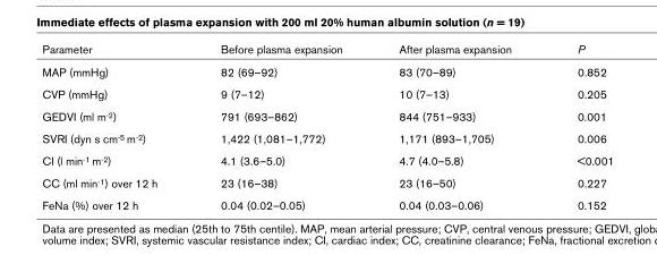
<table><thead><tr><td>Parameter</td><td>Before plasma expansion</td><td>After plasma expansion</td><td>P</td></tr></thead><tbody><tr><td>MAP (mmHg)</td><td>82 (69–92)</td><td>83 (70–89)</td><td>0.852</td></tr><tr><td>CVP (mmHg)</td><td>9 (7–12)</td><td>10 (7–13)</td><td>0.205</td></tr><tr><td>GEDVI (ml m<sup>-2</sup>)</td><td>791 (693–862)</td><td>844 (751–933)</td><td>0.001</td></tr><tr><td>SVRI (dyn s cm<sup>-5</sup> m<sup>-2</sup>)</td><td>1,422 (1,081–1,772)</td><td>1,171 (893–1,705)</td><td>0.006</td></tr><tr><td>CI (l min<sup>-1</sup> m<sup>-2</sup>)</td><td>4.1 (3.6–5.0)</td><td>4.7 (4.0–5.8)</td><td>&lt;0.001</td></tr><tr><td>CC (ml min<sup>-1</sup>) over 12 h</td><td>23 (16–38)</td><td>23 (16–50)</td><td>0.227</td></tr><tr><td>FeNa (%) over 12 h</td><td>0.04 (0.02–0.05)</td><td>0.04 (0.03–0.06)</td><td>0.152</td></tr></tbody></table>